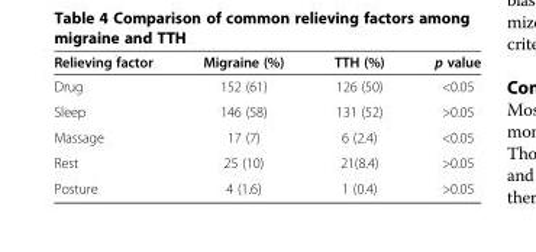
<table><thead><tr><td>Relieving factor</td><td>Migraine (%)</td><td>TTH (%)</td><td>p value</td></tr></thead><tbody><tr><td>Drug</td><td>152 (61)</td><td>126 (50)</td><td>&lt;0.05</td></tr><tr><td>Sleep</td><td>146 (58)</td><td>131 (52)</td><td>&gt;0.05</td></tr><tr><td>Massage</td><td>17 (7)</td><td>6 (2.4)</td><td>&lt;0.05</td></tr><tr><td>Rest</td><td>25 (10)</td><td>21(8.4)</td><td>&gt;0.05</td></tr><tr><td>Posture</td><td>4 (1.6)</td><td>1 (0.4)</td><td>&gt;0.05</td></tr></tbody></table>